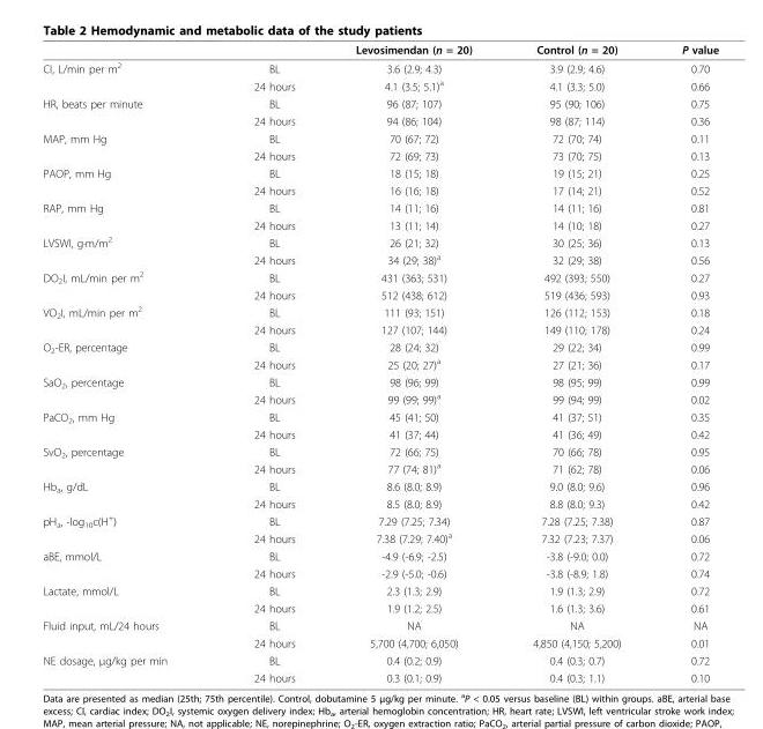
<table><thead><tr><td></td><td></td><td>Levosimendan (n = 20)</td><td>Control (n = 20)</td><td>P value</td></tr></thead><tbody><tr><td rowspan="2">CI, L/min per m<sup>2</sup></td><td>BL</td><td>3.6 (2.9; 4.3)</td><td>3.9 (2.9; 4.6)</td><td>0.70</td></tr><tr><td>24 hours</td><td>4.1 (3.5; 5.1)<sup>a</sup></td><td>4.1 (3.3; 5.0)</td><td>0.66</td></tr><tr><td rowspan="2">HR, beats per minute</td><td>BL</td><td>96 (87; 107)</td><td>95 (90; 106)</td><td>0.75</td></tr><tr><td>24 hours</td><td>94 (86; 104)</td><td>98 (87; 114)</td><td>0.36</td></tr><tr><td rowspan="2">MAP, mm Hg</td><td>BL</td><td>70 (67; 72)</td><td>72 (70; 74)</td><td>0.11</td></tr><tr><td>24 hours</td><td>72 (69; 73)</td><td>73 (70; 75)</td><td>0.13</td></tr><tr><td rowspan="2">PAOP, mm Hg</td><td>BL</td><td>18 (15; 18)</td><td>19 (15; 21)</td><td>0.25</td></tr><tr><td>24 hours</td><td>16 (16; 18)</td><td>17 (14; 21)</td><td>0.52</td></tr><tr><td rowspan="2">RAP, mm Hg</td><td>BL</td><td>14 (11; 16)</td><td>14 (11; 16)</td><td>0.81</td></tr><tr><td>24 hours</td><td>13 (11; 14)</td><td>14 (10; 18)</td><td>0.27</td></tr><tr><td rowspan="2">LVSWI, g·m/m<sup>2</sup></td><td>BL</td><td>26 (21; 32)</td><td>30 (25; 36)</td><td>0.13</td></tr><tr><td>24 hours</td><td>34 (29; 38)<sup>a</sup></td><td>32 (29; 38)</td><td>0.56</td></tr><tr><td rowspan="2">DO<sub>2</sub>I, mL/min per m<sup>2</sup></td><td>BL</td><td>431 (363; 531)</td><td>492 (393; 550)</td><td>0.27</td></tr><tr><td>24 hours</td><td>512 (438; 612)</td><td>519 (436; 593)</td><td>0.93</td></tr><tr><td rowspan="2">VO<sub>2</sub>I, mL/min per m<sup>2</sup></td><td>BL</td><td>111 (93; 151)</td><td>126 (112; 153)</td><td>0.18</td></tr><tr><td>24 hours</td><td>127 (107; 144)</td><td>149 (110; 178)</td><td>0.24</td></tr><tr><td rowspan="2">O<sub>2</sub>-ER, percentage</td><td>BL</td><td>28 (24; 32)</td><td>29 (22; 34)</td><td>0.99</td></tr><tr><td>24 hours</td><td>25 (20; 27)<sup>a</sup></td><td>27 (21; 36)</td><td>0.17</td></tr><tr><td rowspan="2">SaO<sub>2</sub>, percentage</td><td>BL</td><td>98 (96; 99)</td><td>98 (95; 99)</td><td>0.99</td></tr><tr><td>24 hours</td><td>99 (99; 99)<sup>a</sup></td><td>99 (94; 99)</td><td>0.02</td></tr><tr><td rowspan="2">PaCO<sub>2</sub>, mm Hg</td><td>BL</td><td>45 (41; 50)</td><td>41 (37; 51)</td><td>0.35</td></tr><tr><td>24 hours</td><td>41 (37; 44)</td><td>41 (36; 49)</td><td>0.42</td></tr><tr><td rowspan="2">SvO<sub>2</sub>, percentage</td><td>BL</td><td>72 (66; 75)</td><td>70 (66; 78)</td><td>0.95</td></tr><tr><td>24 hours</td><td>77 (74; 81)<sup>a</sup></td><td>71 (62; 78)</td><td>0.06</td></tr><tr><td rowspan="2">Hb<sub>a</sub>, g/dL</td><td>BL</td><td>8.6 (8.0; 8.9)</td><td>9.0 (8.0; 9.6)</td><td>0.96</td></tr><tr><td>24 hours</td><td>8.5 (8.0; 8.9)</td><td>8.8 (8.0; 9.3)</td><td>0.42</td></tr><tr><td rowspan="2">pH<sub>a</sub>, -log<sub>10</sub>c(H<sup>+</sup>)</td><td>BL</td><td>7.29 (7.25; 7.34)</td><td>7.28 (7.25; 7.38)</td><td>0.87</td></tr><tr><td>24 hours</td><td>7.38 (7.29; 7.40)<sup>a</sup></td><td>7.32 (7.23; 7.37)</td><td>0.06</td></tr><tr><td rowspan="2">aBE, mmol/L</td><td>BL</td><td>-4.9 (-6.9; -2.5)</td><td>-3.8 (-9.0; 0.0)</td><td>0.72</td></tr><tr><td>24 hours</td><td>-2.9 (-5.0; -0.6)</td><td>-3.8 (-8.9; 1.8)</td><td>0.74</td></tr><tr><td rowspan="2">Lactate, mmol/L</td><td>BL</td><td>2.3 (1.3; 2.9)</td><td>1.9 (1.3; 2.9)</td><td>0.72</td></tr><tr><td>24 hours</td><td>1.9 (1.2; 2.5)</td><td>1.6 (1.3; 3.6)</td><td>0.61</td></tr><tr><td rowspan="2">Fluid input, mL/24 hours</td><td>BL</td><td>NA</td><td>NA</td><td>NA</td></tr><tr><td>24 hours</td><td>5,700 (4,700; 6,050)</td><td>4,850 (4,150; 5,200)</td><td>0.01</td></tr><tr><td rowspan="2">NE dosage, μg/kg per min</td><td>BL</td><td>0.4 (0.2; 0.9)</td><td>0.4 (0.3; 0.7)</td><td>0.72</td></tr><tr><td>24 hours</td><td>0.3 (0.1; 0.9)</td><td>0.4 (0.3; 1.1)</td><td>0.10</td></tr></tbody></table>